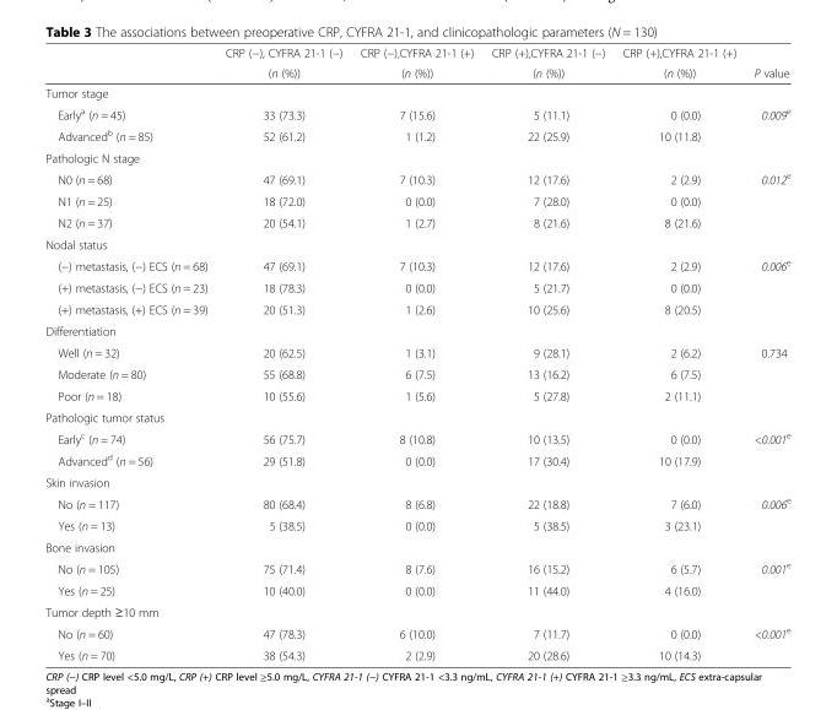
<table><thead><tr><td rowspan="2"></td><td rowspan="2">CRP (−), CYFRA 21-1 (−) (n (%))</td><td rowspan="2">CRP (−),CYFRA 21-1 (+) (n (%))</td><td rowspan="2">CRP (+),CYFRA 21-1 (−) (n (%))</td><td rowspan="2">CRP (+),CYFRA 21-1 (+) (n (%))</td><td rowspan="2">P value</td></tr><tr></tr></thead><tbody><tr><td colspan="6">Tumor stage</td></tr><tr><td>Early<sup>a</sup> (n = 45)</td><td>33 (73.3)</td><td>7 (15.6)</td><td>5 (11.1)</td><td>0 (0.0)</td><td>0.009<sup>e</sup></td></tr><tr><td>Advanced<sup>b</sup> (n = 85)</td><td>52 (61.2)</td><td>1 (1.2)</td><td>22 (25.9)</td><td>10 (11.8)</td><td></td></tr><tr><td colspan="6">Pathologic N stage</td></tr><tr><td>N0 (n = 68)</td><td>47 (69.1)</td><td>7 (10.3)</td><td>12 (17.6)</td><td>2 (2.9)</td><td>0.012<sup>e</sup></td></tr><tr><td>N1 (n = 25)</td><td>18 (72.0)</td><td>0 (0.0)</td><td>7 (28.0)</td><td>0 (0.0)</td><td></td></tr><tr><td>N2 (n = 37)</td><td>20 (54.1)</td><td>1 (2.7)</td><td>8 (21.6)</td><td>8 (21.6)</td><td></td></tr><tr><td colspan="6">Nodal status</td></tr><tr><td>(−) metastasis, (−) ECS (n = 68)</td><td>47 (69.1)</td><td>7 (10.3)</td><td>12 (17.6)</td><td>2 (2.9)</td><td>0.006<sup>e</sup></td></tr><tr><td>(+) metastasis, (−) ECS (n = 23)</td><td>18 (78.3)</td><td>0 (0.0)</td><td>5 (21.7)</td><td>0 (0.0)</td><td></td></tr><tr><td>(+) metastasis, (+) ECS (n = 39)</td><td>20 (51.3)</td><td>1 (2.6)</td><td>10 (25.6)</td><td>8 (20.5)</td><td></td></tr><tr><td colspan="6">Differentiation</td></tr><tr><td>Well (n = 32)</td><td>20 (62.5)</td><td>1 (3.1)</td><td>9 (28.1)</td><td>2 (6.2)</td><td>0.734</td></tr><tr><td>Moderate (n = 80)</td><td>55 (68.8)</td><td>6 (7.5)</td><td>13 (16.2)</td><td>6 (7.5)</td><td></td></tr><tr><td>Poor (n = 18)</td><td>10 (55.6)</td><td>1 (5.6)</td><td>5 (27.8)</td><td>2 (11.1)</td><td></td></tr><tr><td colspan="6">Pathologic tumor status</td></tr><tr><td>Early<sup>c</sup> (n = 74)</td><td>56 (75.7)</td><td>8 (10.8)</td><td>10 (13.5)</td><td>0 (0.0)</td><td>&lt;0.001<sup>e</sup></td></tr><tr><td>Advanced<sup>d</sup> (n = 56)</td><td>29 (51.8)</td><td>0 (0.0)</td><td>17 (30.4)</td><td>10 (17.9)</td><td></td></tr><tr><td colspan="6">Skin invasion</td></tr><tr><td>No (n = 117)</td><td>80 (68.4)</td><td>8 (6.8)</td><td>22 (18.8)</td><td>7 (6.0)</td><td>0.006<sup>e</sup></td></tr><tr><td>Yes (n = 13)</td><td>5 (38.5)</td><td>0 (0.0)</td><td>5 (38.5)</td><td>3 (23.1)</td><td></td></tr><tr><td colspan="6">Bone invasion</td></tr><tr><td>No (n = 105)</td><td>75 (71.4)</td><td>8 (7.6)</td><td>16 (15.2)</td><td>6 (5.7)</td><td>0.001<sup>e</sup></td></tr><tr><td>Yes (n = 25)</td><td>10 (40.0)</td><td>0 (0.0)</td><td>11 (44.0)</td><td>4 (16.0)</td><td></td></tr><tr><td colspan="6">Tumor depth ≥10 mm</td></tr><tr><td>No (n = 60)</td><td>47 (78.3)</td><td>6 (10.0)</td><td>7 (11.7)</td><td>0 (0.0)</td><td>&lt;0.001<sup>e</sup></td></tr><tr><td>Yes (n = 70)</td><td>38 (54.3)</td><td>2 (2.9)</td><td>20 (28.6)</td><td>10 (14.3)</td><td></td></tr></tbody></table>